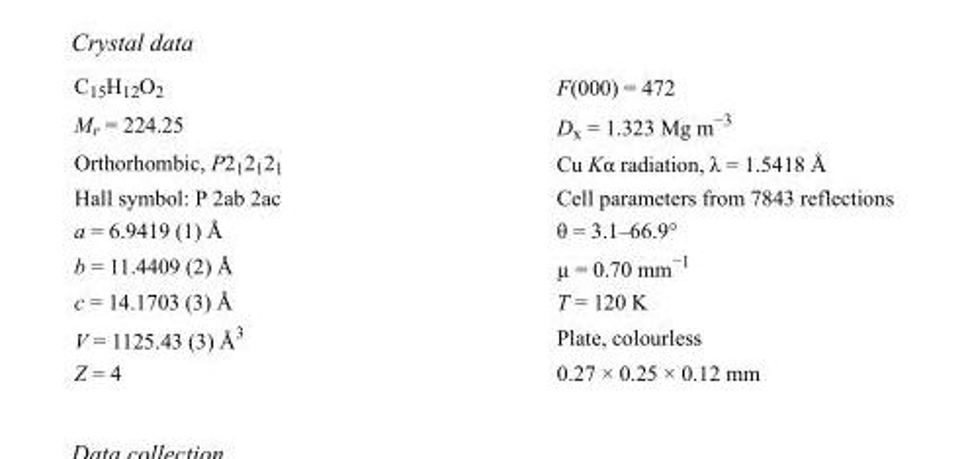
<table><tbody><tr><td>C<sub>15</sub>H<sub>12</sub>O<sub>2</sub></td><td>F(000) = 472</td></tr><tr><td>M<sub>r</sub> = 224.25</td><td>D<sub>x</sub> = 1.323 Mg m<sup>−3</sup></td></tr><tr><td>Orthorhombic, P2<sub>1</sub>2<sub>1</sub>2<sub>1</sub></td><td>Cu Kα radiation, λ = 1.5418 Å</td></tr><tr><td>Hall symbol: P 2ab 2ac</td><td>Cell parameters from 7843 reflections</td></tr><tr><td>a = 6.9419 (1) Å</td><td>θ = 3.1–66.9°</td></tr><tr><td>b = 11.4409 (2) Å</td><td>µ = 0.70 mm<sup>−1</sup></td></tr><tr><td>c = 14.1703 (3) Å</td><td>T = 120 K</td></tr><tr><td>V = 1125.43 (3) Å<sup>3</sup></td><td>Plate, colourless</td></tr><tr><td>Z = 4</td><td>0.27 × 0.25 × 0.12 mm</td></tr></tbody></table>